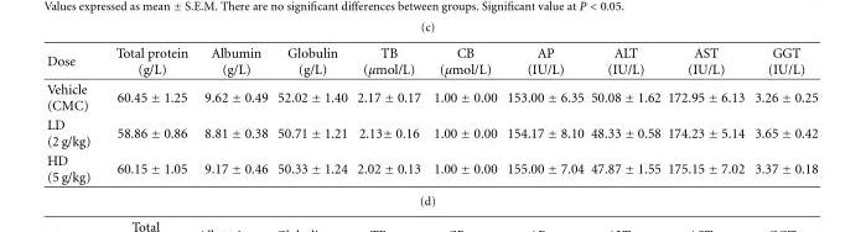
<table><thead><tr><td>Dose</td><td>Total protein (g/L)</td><td>Albumin (g/L)</td><td>Globulin (g/L)</td><td>TB (µmol/L)</td><td>CB (µmol/L)</td><td>AP (IU/L)</td><td>ALT (IU/L)</td><td>AST (IU/L)</td><td>GGT (IU/L)</td></tr></thead><tbody><tr><td>Vehicle (CMC)</td><td>60.45 ± 1.25</td><td>9.62 ± 0.49</td><td>52.02 ± 1.40</td><td>2.17 ± 0.17</td><td>1.00 ± 0.00</td><td>153.00 ± 6.35</td><td>50.08 ± 1.62</td><td>172.95 ± 6.13</td><td>3.26 ± 0.25</td></tr><tr><td>LD (2 g/kg)</td><td>58.86 ± 0.86</td><td>8.81 ± 0.38</td><td>50.71 ± 1.21</td><td>2.13± 0.16</td><td>1.00 ± 0.00</td><td>154.17 ± 8.10</td><td>48.33 ± 0.58</td><td>174.23 ± 5.14</td><td>3.65 ± 0.42</td></tr><tr><td>HD (5 g/kg)</td><td>60.15 ± 1.05</td><td>9.17 ± 0.46</td><td>50.33 ± 1.24</td><td>2.02 ± 0.13</td><td>1.00 ± 0.00</td><td>155.00 ± 7.04</td><td>47.87 ± 1.55</td><td>175.15 ± 7.02</td><td>3.37 ± 0.18</td></tr></tbody></table>